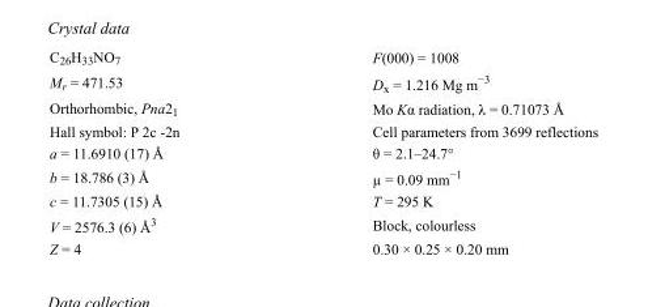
<table><tbody><tr><td>C<sub>26</sub>H<sub>33</sub>NO<sub>7</sub></td><td>F(000) = 1008</td></tr><tr><td>M<sub>r</sub> = 471.53</td><td>D<sub>x</sub> = 1.216 Mg m<sup>−3</sup></td></tr><tr><td>Orthorhombic, Pna2<sub>1</sub></td><td>Mo Kα radiation, λ = 0.71073 Å</td></tr><tr><td>Hall symbol: P 2c -2n</td><td>Cell parameters from 3699 reflections</td></tr><tr><td>a = 11.6910 (17) Å</td><td>θ = 2.1–24.7°</td></tr><tr><td>b = 18.786 (3) Å</td><td>µ = 0.09 mm<sup>−1</sup></td></tr><tr><td>c = 11.7305 (15) Å</td><td>T = 295 K</td></tr><tr><td>V = 2576.3 (6) Å<sup>3</sup></td><td>Block, colourless</td></tr><tr><td>Z = 4</td><td>0.30 × 0.25 × 0.20 mm</td></tr></tbody></table>